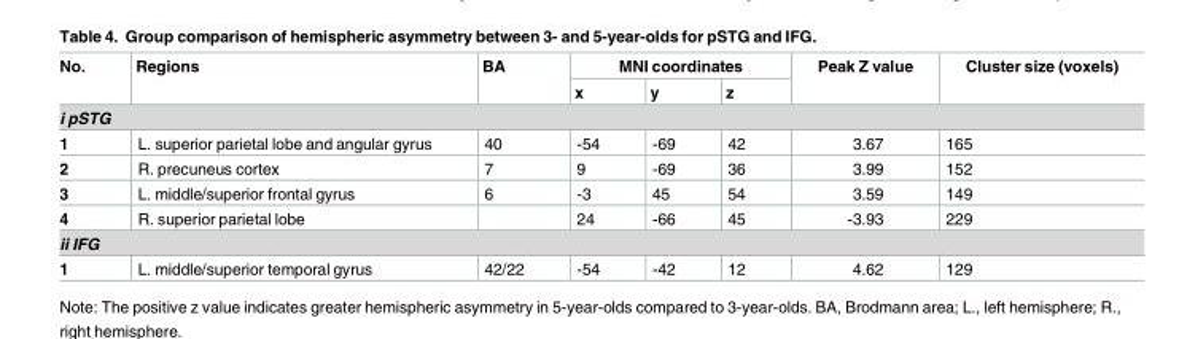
<table><thead><tr><td rowspan="2">No.</td><td rowspan="2">Regions</td><td rowspan="2">BA</td><td colspan="3">MNI coordinates</td><td rowspan="2">Peak Z value</td><td rowspan="2">Cluster size (voxels)</td></tr><tr><td>x</td><td>y</td><td>z</td></tr></thead><tbody><tr><td colspan="8">i pSTG</td></tr><tr><td>1</td><td>L. superior parietal lobe and angular gyrus</td><td>40</td><td>-54</td><td>-69</td><td>42</td><td>3.67</td><td>165</td></tr><tr><td>2</td><td>R. precuneus cortex</td><td>7</td><td>9</td><td>-69</td><td>36</td><td>3.99</td><td>152</td></tr><tr><td>3</td><td>L. middle/superior frontal gyrus</td><td>6</td><td>-3</td><td>45</td><td>54</td><td>3.59</td><td>149</td></tr><tr><td>4</td><td>R. superior parietal lobe</td><td></td><td>24</td><td>-66</td><td>45</td><td>-3.93</td><td>229</td></tr><tr><td colspan="8">ii IFG</td></tr><tr><td>1</td><td>L. middle/superior temporal gyrus</td><td>42/22</td><td>-54</td><td>-42</td><td>12</td><td>4.62</td><td>129</td></tr></tbody></table>